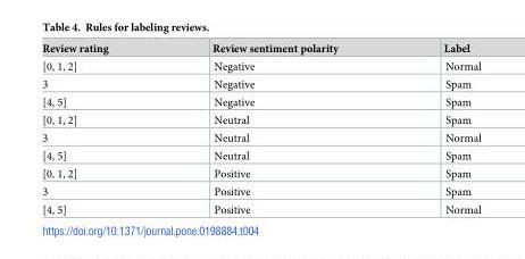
<table><thead><tr><td>Review rating</td><td>Review sentiment polarity</td><td>Label</td></tr></thead><tbody><tr><td>[0, 1, 2]</td><td>Negative</td><td>Normal</td></tr><tr><td>3</td><td>Negative</td><td>Spam</td></tr><tr><td>[4, 5]</td><td>Negative</td><td>Spam</td></tr><tr><td>[0, 1, 2]</td><td>Neutral</td><td>Spam</td></tr><tr><td>3</td><td>Neutral</td><td>Normal</td></tr><tr><td>[4, 5]</td><td>Neutral</td><td>Spam</td></tr><tr><td>[0, 1, 2]</td><td>Positive</td><td>Spam</td></tr><tr><td>3</td><td>Positive</td><td>Spam</td></tr><tr><td>[4, 5]</td><td>Positive</td><td>Normal</td></tr></tbody></table>